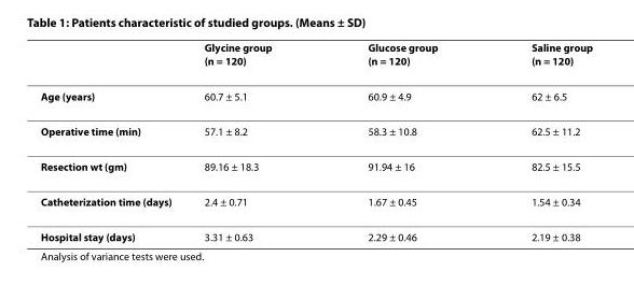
<table><thead><tr><td></td><td>Glycine group (n = 120)</td><td>Glucose group (n = 120)</td><td>Saline group (n = 120)</td></tr></thead><tbody><tr><td>Age (years)</td><td>60.7 ± 5.1</td><td>60.9 ± 4.9</td><td>62 ± 6.5</td></tr><tr><td>Operative time (min)</td><td>57.1 ± 8.2</td><td>58.3 ± 10.8</td><td>62.5 ± 11.2</td></tr><tr><td>Resection wt (gm)</td><td>89.16 ± 18.3</td><td>91.94 ± 16</td><td>82.5 ± 15.5</td></tr><tr><td>Catheterization time (days)</td><td>2.4 ± 0.71</td><td>1.67 ± 0.45</td><td>1.54 ± 0.34</td></tr><tr><td>Hospital stay (days)</td><td>3.31 ± 0.63</td><td>2.29 ± 0.46</td><td>2.19 ± 0.38</td></tr></tbody></table>